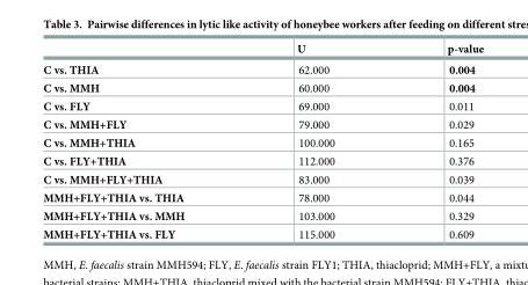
<table><thead><tr><td></td><td>U</td><td>p-value</td></tr></thead><tbody><tr><td>C vs. THIA</td><td>62.000</td><td>0.004</td></tr><tr><td>C vs. MMH</td><td>60.000</td><td>0.004</td></tr><tr><td>C vs. FLY</td><td>69.000</td><td>0.011</td></tr><tr><td>C vs. MMH+FLY</td><td>79.000</td><td>0.029</td></tr><tr><td>C vs. MMH+THIA</td><td>100.000</td><td>0.165</td></tr><tr><td>C vs. FLY+THIA</td><td>112.000</td><td>0.376</td></tr><tr><td>C vs. MMH+FLY+THIA</td><td>83.000</td><td>0.039</td></tr><tr><td>MMH+FLY+THIA vs. THIA</td><td>78.000</td><td>0.044</td></tr><tr><td>MMH+FLY+THIA vs. MMH</td><td>103.000</td><td>0.329</td></tr><tr><td>MMH+FLY+THIA vs. FLY</td><td>115.000</td><td>0.609</td></tr></tbody></table>